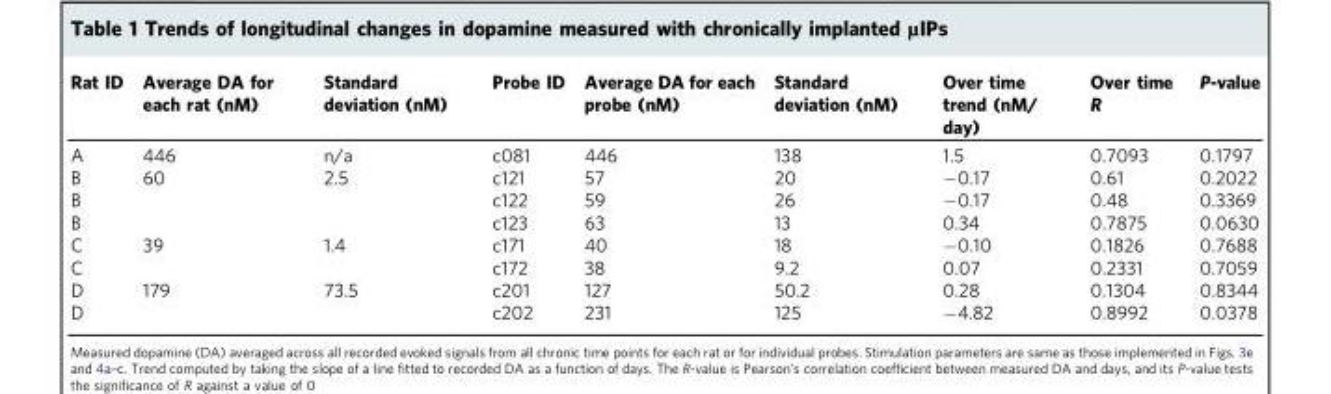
<table><thead><tr><td>Rat ID</td><td>Average DA for each rat (nM)</td><td>Standard deviation (nM)</td><td>Probe ID</td><td>Average DA for each probe (nM)</td><td>Standard deviation (nM)</td><td>Over time trend (nM/ day)</td><td>Over time R</td><td>P-value</td></tr></thead><tbody><tr><td>A</td><td>446</td><td>n/a</td><td>c081</td><td>446</td><td>138</td><td>1.5</td><td>0.7093</td><td>0.1797</td></tr><tr><td>B</td><td>60</td><td>2.5</td><td>c121</td><td>57</td><td>20</td><td>−0.17</td><td>0.61</td><td>0.2022</td></tr><tr><td>B</td><td></td><td></td><td>c122</td><td>59</td><td>26</td><td>−0.17</td><td>0.48</td><td>0.3369</td></tr><tr><td>B</td><td></td><td></td><td>c123</td><td>63</td><td>13</td><td>0.34</td><td>0.7875</td><td>0.0630</td></tr><tr><td>C</td><td>39</td><td>1.4</td><td>c171</td><td>40</td><td>18</td><td>−0.10</td><td>0.1826</td><td>0.7688</td></tr><tr><td>C</td><td></td><td></td><td>c172</td><td>38</td><td>9.2</td><td>0.07</td><td>0.2331</td><td>0.7059</td></tr><tr><td>D</td><td>179</td><td>73.5</td><td>c201</td><td>127</td><td>50.2</td><td>0.28</td><td>0.1304</td><td>0.8344</td></tr><tr><td>D</td><td></td><td></td><td>c202</td><td>231</td><td>125</td><td>−4.82</td><td>0.8992</td><td>0.0378</td></tr></tbody></table>